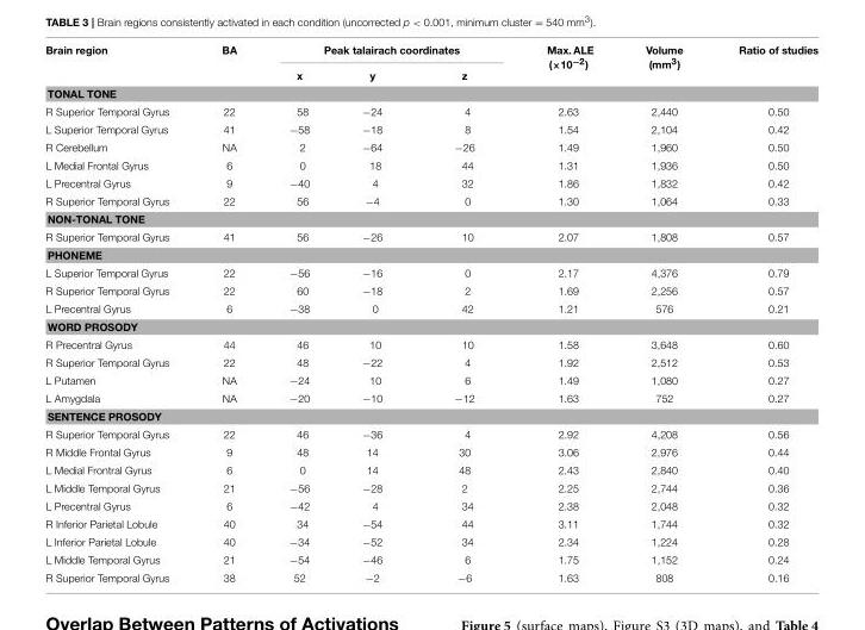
<table><thead><tr><td rowspan="2">Brain region</td><td rowspan="2">BA</td><td colspan="3">Peak talairach coordinates</td><td rowspan="2">Max. ALE (×10<sup>−2</sup>)</td><td rowspan="2">Volume (mm<sup>3</sup>)</td><td rowspan="2">Ratio of studies</td></tr><tr><td>x</td><td>y</td><td>z</td></tr></thead><tbody><tr><td colspan="8">TONAL TONE</td></tr><tr><td>R Superior Temporal Gyrus</td><td>22</td><td>58</td><td>−24</td><td>4</td><td>2.63</td><td>2,440</td><td>0.50</td></tr><tr><td>L Superior Temporal Gyrus</td><td>41</td><td>−58</td><td>−18</td><td>8</td><td>1.54</td><td>2,104</td><td>0.42</td></tr><tr><td>R Cerebellum</td><td>NA</td><td>2</td><td>−64</td><td>−26</td><td>1.49</td><td>1,960</td><td>0.50</td></tr><tr><td>L Medial Frontal Gyrus</td><td>6</td><td>0</td><td>18</td><td>44</td><td>1.31</td><td>1,936</td><td>0.50</td></tr><tr><td>L Precentral Gyrus</td><td>9</td><td>−40</td><td>4</td><td>32</td><td>1.86</td><td>1,832</td><td>0.42</td></tr><tr><td>R Superior Temporal Gyrus</td><td>22</td><td>56</td><td>−4</td><td>0</td><td>1.30</td><td>1,064</td><td>0.33</td></tr><tr><td colspan="8">NON-TONAL TONE</td></tr><tr><td>R Superior Temporal Gyrus</td><td>41</td><td>56</td><td>−26</td><td>10</td><td>2.07</td><td>1,808</td><td>0.57</td></tr><tr><td colspan="8">PHONEME</td></tr><tr><td>L Superior Temporal Gyrus</td><td>22</td><td>−56</td><td>−16</td><td>0</td><td>2.17</td><td>4,376</td><td>0.79</td></tr><tr><td>R Superior Temporal Gyrus</td><td>22</td><td>60</td><td>−18</td><td>2</td><td>1.69</td><td>2,256</td><td>0.57</td></tr><tr><td>L Precentral Gyrus</td><td>6</td><td>−38</td><td>0</td><td>42</td><td>1.21</td><td>576</td><td>0.21</td></tr><tr><td colspan="8">WORD PROSODY</td></tr><tr><td>R Precentral Gyrus</td><td>44</td><td>46</td><td>10</td><td>10</td><td>1.58</td><td>3,648</td><td>0.60</td></tr><tr><td>R Superior Temporal Gyrus</td><td>22</td><td>48</td><td>−22</td><td>4</td><td>1.92</td><td>2,512</td><td>0.53</td></tr><tr><td>L Putamen</td><td>NA</td><td>−24</td><td>10</td><td>6</td><td>1.49</td><td>1,080</td><td>0.27</td></tr><tr><td>L Amygdala</td><td>NA</td><td>−20</td><td>−10</td><td>−12</td><td>1.63</td><td>752</td><td>0.27</td></tr><tr><td colspan="8">SENTENCE PROSODY</td></tr><tr><td>R Superior Temporal Gyrus</td><td>22</td><td>46</td><td>−36</td><td>4</td><td>2.92</td><td>4,208</td><td>0.56</td></tr><tr><td>R Middle Frontal Gyrus</td><td>9</td><td>48</td><td>14</td><td>30</td><td>3.06</td><td>2,976</td><td>0.44</td></tr><tr><td>L Medial Frontral Gyrus</td><td>6</td><td>0</td><td>14</td><td>48</td><td>2.43</td><td>2,840</td><td>0.40</td></tr><tr><td>L Middle Temporal Gyrus</td><td>21</td><td>−56</td><td>−28</td><td>2</td><td>2.25</td><td>2,744</td><td>0.36</td></tr><tr><td>L Precentral Gyrus</td><td>6</td><td>−42</td><td>4</td><td>34</td><td>2.38</td><td>2,048</td><td>0.32</td></tr><tr><td>R Inferior Parietal Lobule</td><td>40</td><td>34</td><td>−54</td><td>44</td><td>3.11</td><td>1,744</td><td>0.32</td></tr><tr><td>L Inferior Parietal Lobule</td><td>40</td><td>−34</td><td>−52</td><td>34</td><td>2.34</td><td>1,224</td><td>0.28</td></tr><tr><td>L Middle Temporal Gyrus</td><td>21</td><td>−54</td><td>−46</td><td>6</td><td>1.75</td><td>1,152</td><td>0.24</td></tr><tr><td>R Superior Temporal Gyrus</td><td>38</td><td>52</td><td>−2</td><td>−6</td><td>1.63</td><td>808</td><td>0.16</td></tr></tbody></table>